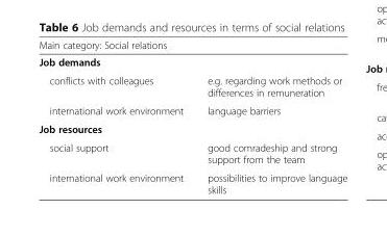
<table><thead><tr><td rowspan="2" colspan="2">Main category: Social relations Job demands</td></tr><tr></tr><tr><td>conflicts with colleagues</td><td>e.g. regarding work methods or differences in remuneration</td></tr></thead><tbody><tr><td>international work environment</td><td>language barriers</td></tr><tr><td colspan="2">Job resources</td></tr><tr><td>social support</td><td>good comradeship and strong support from the team</td></tr><tr><td>international work environment</td><td>possibilities to improve language skills</td></tr></tbody></table>